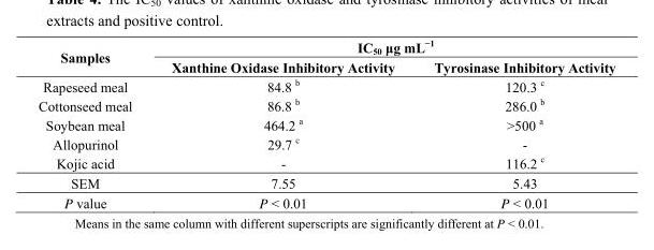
<table><thead><tr><td rowspan="2">Samples</td><td colspan="2">IC<sub>50</sub> μg mL<sup>−1</sup></td></tr><tr><td>Xanthine Oxidase Inhibitory Activity</td><td>Tyrosinase Inhibitory Activity</td></tr></thead><tbody><tr><td>Rapeseed meal</td><td>84.8 <sup>b</sup></td><td>120.3 <sup>c</sup></td></tr><tr><td>Cottonseed meal</td><td>86.8 <sup>b</sup></td><td>286.0 <sup>b</sup></td></tr><tr><td>Soybean meal</td><td>464.2 <sup>a</sup></td><td>&gt;500 <sup>a</sup></td></tr><tr><td>Allopurinol</td><td>29.7 <sup>c</sup></td><td>-</td></tr><tr><td>Kojic acid</td><td>-</td><td>116.2 <sup>c</sup></td></tr><tr><td>SEM</td><td>7.55</td><td>5.43</td></tr><tr><td>P value</td><td>P &lt; 0.01</td><td>P &lt; 0.01</td></tr></tbody></table>